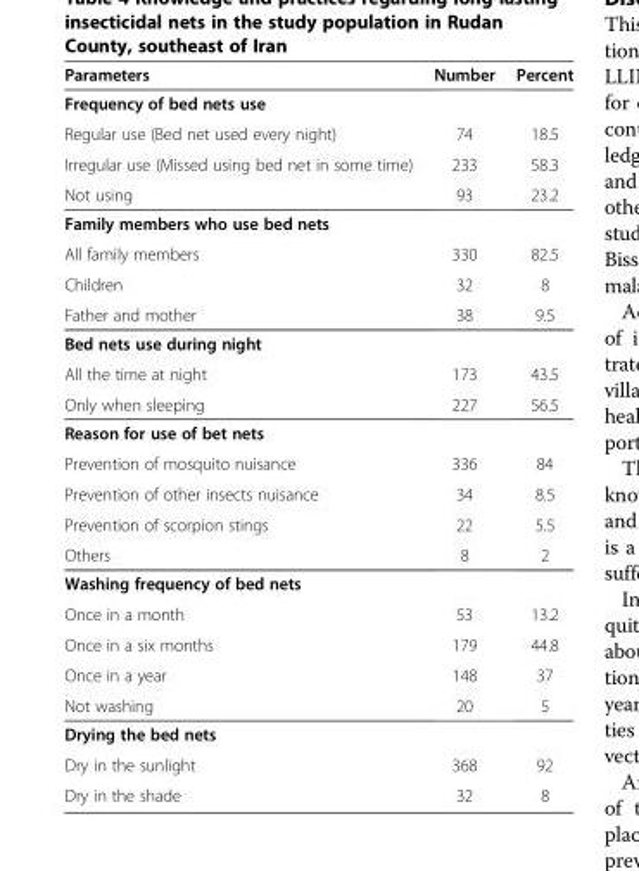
<table><thead><tr><td>Parameters</td><td>Number</td><td>Percent</td></tr></thead><tbody><tr><td colspan="3">Frequency of bed nets use</td></tr><tr><td>Regular use (Bed net used every night)</td><td>74</td><td>18.5</td></tr><tr><td>Irregular use (Missed using bed net in some time)</td><td>233</td><td>58.3</td></tr><tr><td>Not using</td><td>93</td><td>23.2</td></tr><tr><td colspan="3">Family members who use bed nets</td></tr><tr><td>All family members</td><td>330</td><td>82.5</td></tr><tr><td>Children</td><td>32</td><td>8</td></tr><tr><td>Father and mother</td><td>38</td><td>9.5</td></tr><tr><td colspan="3">Bed nets use during night</td></tr><tr><td>All the time at night</td><td>173</td><td>43.5</td></tr><tr><td>Only when sleeping</td><td>227</td><td>56.5</td></tr><tr><td colspan="3">Reason for use of bet nets</td></tr><tr><td>Prevention of mosquito nuisance</td><td>336</td><td>84</td></tr><tr><td>Prevention of other insects nuisance</td><td>34</td><td>8.5</td></tr><tr><td>Prevention of scorpion stings</td><td>22</td><td>5.5</td></tr><tr><td>Others</td><td>8</td><td>2</td></tr><tr><td colspan="3">Washing frequency of bed nets</td></tr><tr><td>Once in a month</td><td>53</td><td>13.2</td></tr><tr><td>Once in a six months</td><td>179</td><td>44.8</td></tr><tr><td>Once in a year</td><td>148</td><td>37</td></tr><tr><td>Not washing</td><td>20</td><td>5</td></tr><tr><td colspan="3">Drying the bed nets</td></tr><tr><td>Dry in the sunlight</td><td>368</td><td>92</td></tr><tr><td>Dry in the shade</td><td>32</td><td>8</td></tr></tbody></table>